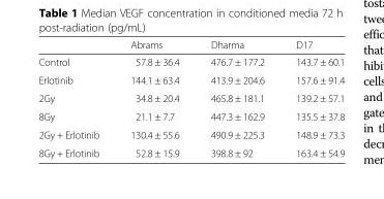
<table><thead><tr><td></td><td>Abrams</td><td>Dharma</td><td>D17</td></tr></thead><tbody><tr><td>Control</td><td>57.8 ± 36.4</td><td>476.7 ± 177.2</td><td>143.7 ± 60.1</td></tr><tr><td>Erlotinib</td><td>144.1 ± 63.4</td><td>413.9 ± 204.6</td><td>157.6 ± 91.4</td></tr><tr><td>2Gy</td><td>34.8 ± 20.4</td><td>465.8 ± 181.1</td><td>139.2 ± 57.1</td></tr><tr><td>8Gy</td><td>21.1 ± 7.7</td><td>447.3 ± 162.9</td><td>135.5 ± 37.8</td></tr><tr><td>2Gy + Erlotinib</td><td>130.4 ± 55.6</td><td>490.9 ± 225.3</td><td>148.9 ± 73.3</td></tr><tr><td>8Gy + Erlotinib</td><td>52.8 ± 15.9</td><td>398.8 ± 92</td><td>163.4 ± 54.9</td></tr></tbody></table>